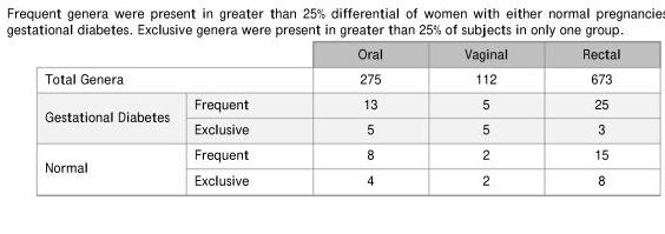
<table><thead><tr><td></td><td></td><td>Oral</td><td>Vaginal</td><td>Rectal</td></tr></thead><tbody><tr><td colspan="2">Total Genera</td><td>275</td><td>112</td><td>673</td></tr><tr><td rowspan="2">Gestational Diabetes</td><td>Frequent</td><td>13</td><td>5</td><td>25</td></tr><tr><td>Exclusive</td><td>5</td><td>5</td><td>3</td></tr><tr><td rowspan="2">Normal</td><td>Frequent</td><td>8</td><td>2</td><td>15</td></tr><tr><td>Exclusive</td><td>4</td><td>2</td><td>8</td></tr></tbody></table>